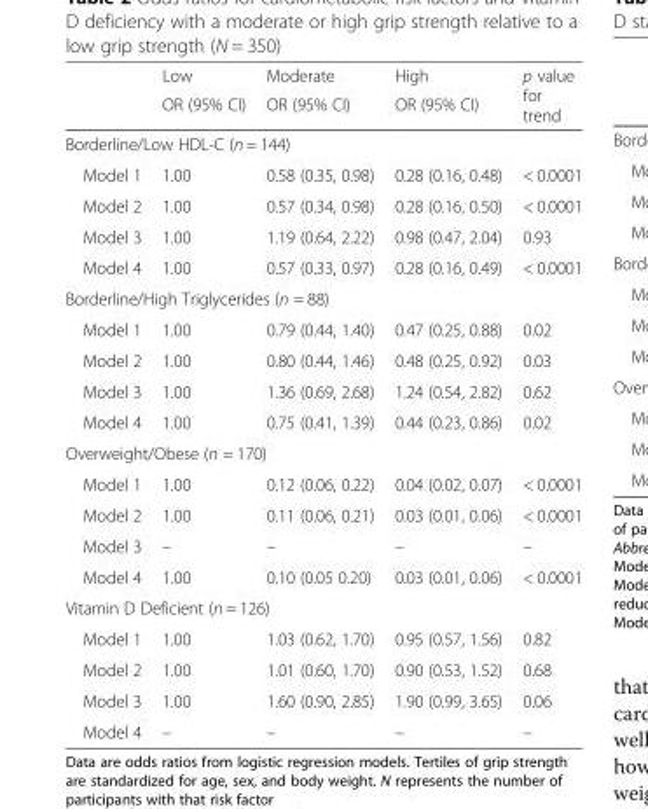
<table><thead><tr><td rowspan="2"></td><td rowspan="2">Low OR (95% CI)</td><td rowspan="2">Moderate OR (95% CI)</td><td rowspan="2">High OR (95% CI)</td><td rowspan="2">p value for trend</td></tr><tr></tr></thead><tbody><tr><td colspan="5">Borderline/Low HDL-C (n = 144)</td></tr><tr><td>Model 1</td><td>1.00</td><td>0.58 (0.35, 0.98)</td><td>0.28 (0.16, 0.48)</td><td>&lt; 0.0001</td></tr><tr><td>Model 2</td><td>1.00</td><td>0.57 (0.34, 0.98)</td><td>0.28 (0.16, 0.50)</td><td>&lt; 0.0001</td></tr><tr><td>Model 3</td><td>1.00</td><td>1.19 (0.64, 2.22)</td><td>0.98 (0.47, 2.04)</td><td>0.93</td></tr><tr><td>Model 4</td><td>1.00</td><td>0.57 (0.33, 0.97)</td><td>0.28 (0.16, 0.49)</td><td>&lt; 0.0001</td></tr><tr><td colspan="5">Borderline/High Triglycerides (n = 88)</td></tr><tr><td>Model 1</td><td>1.00</td><td>0.79 (0.44, 1.40)</td><td>0.47 (0.25, 0.88)</td><td>0.02</td></tr><tr><td>Model 2</td><td>1.00</td><td>0.80 (0.44, 1.46)</td><td>0.48 (0.25, 0.92)</td><td>0.03</td></tr><tr><td>Model 3</td><td>1.00</td><td>1.36 (0.69, 2.68)</td><td>1.24 (0.54, 2.82)</td><td>0.62</td></tr><tr><td>Model 4</td><td>1.00</td><td>0.75 (0.41, 1.39)</td><td>0.44 (0.23, 0.86)</td><td>0.02</td></tr><tr><td colspan="5">Overweight/Obese (n = 170)</td></tr><tr><td>Model 1</td><td>1.00</td><td>0.12 (0.06, 0.22)</td><td>0.04 (0.02, 0.07)</td><td>&lt; 0.0001</td></tr><tr><td>Model 2</td><td>1.00</td><td>0.11 (0.06, 0.21)</td><td>0.03 (0.01, 0.06)</td><td>&lt; 0.0001</td></tr><tr><td>Model 3</td><td>–</td><td>–</td><td>–</td><td>–</td></tr><tr><td>Model 4</td><td>1.00</td><td>0.10 (0.05 0.20)</td><td>0.03 (0.01, 0.06)</td><td>&lt; 0.0001</td></tr><tr><td colspan="5">Vitamin D Deficient (n = 126)</td></tr><tr><td>Model 1</td><td>1.00</td><td>1.03 (0.62, 1.70)</td><td>0.95 (0.57, 1.56)</td><td>0.82</td></tr><tr><td>Model 2</td><td>1.00</td><td>1.01 (0.60, 1.70)</td><td>0.90 (0.53, 1.52)</td><td>0.68</td></tr><tr><td>Model 3</td><td>1.00</td><td>1.60 (0.90, 2.85)</td><td>1.90 (0.99, 3.65)</td><td>0.06</td></tr><tr><td>Model 4</td><td>–</td><td>–</td><td>–</td><td>–</td></tr></tbody></table>